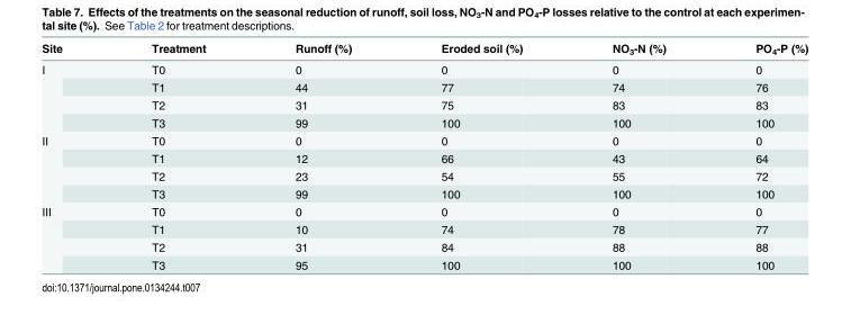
<table><thead><tr><td>Site</td><td>Treatment</td><td>Runoff (%)</td><td>Eroded soil (%)</td><td>NO<sub>3</sub>-N (%)</td><td>PO<sub>4</sub>-P (%)</td></tr></thead><tbody><tr><td rowspan="4">I</td><td>T0</td><td>0</td><td>0</td><td>0</td><td>0</td></tr><tr><td>T1</td><td>44</td><td>77</td><td>74</td><td>76</td></tr><tr><td>T2</td><td>31</td><td>75</td><td>83</td><td>83</td></tr><tr><td>T3</td><td>99</td><td>100</td><td>100</td><td>100</td></tr><tr><td rowspan="4">II</td><td>T0</td><td>0</td><td>0</td><td>0</td><td>0</td></tr><tr><td>T1</td><td>12</td><td>66</td><td>43</td><td>64</td></tr><tr><td>T2</td><td>23</td><td>54</td><td>55</td><td>72</td></tr><tr><td>T3</td><td>99</td><td>100</td><td>100</td><td>100</td></tr><tr><td rowspan="4">III</td><td>T0</td><td>0</td><td>0</td><td>0</td><td>0</td></tr><tr><td>T1</td><td>10</td><td>74</td><td>78</td><td>77</td></tr><tr><td>T2</td><td>31</td><td>84</td><td>88</td><td>88</td></tr><tr><td>T3</td><td>95</td><td>100</td><td>100</td><td>100</td></tr></tbody></table>